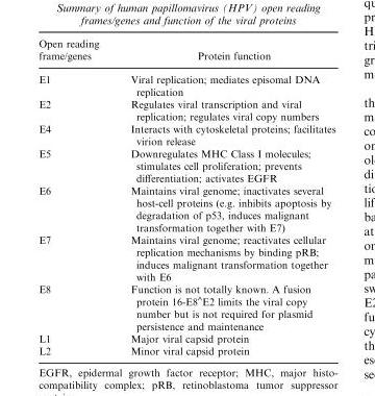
<table><thead><tr><td>Open reading frame/genes</td><td>Protein function</td></tr></thead><tbody><tr><td>E1</td><td>Viral replication; mediates episomal DNA replication</td></tr><tr><td>E2</td><td>Regulates viral transcription and viral replication; regulates viral copy numbers</td></tr><tr><td>E4</td><td>Interacts with cytoskeletal proteins; facilitates virion release</td></tr><tr><td>E5</td><td>Downregulates MHC Class I molecules; stimulates cell proliferation; prevents differentiation; activates EGFR</td></tr><tr><td>E6</td><td>Maintains viral genome; inactivates several host-cell proteins (e.g. inhibits apoptosis by degradation of p53, induces malignant transformation together with E7)</td></tr><tr><td>E7</td><td>Maintains viral genome; reactivates cellular replication mechanisms by binding pRB; induces malignant transformation together with E6</td></tr><tr><td>E8</td><td>Function is not totally known. A fusion protein 16-E8<sup>∧</sup>E2 limits the viral copy number but is not required for plasmid persistence and maintenance</td></tr><tr><td>L1</td><td>Major viral capsid protein</td></tr><tr><td>L2</td><td>Minor viral capsid protein</td></tr></tbody></table>